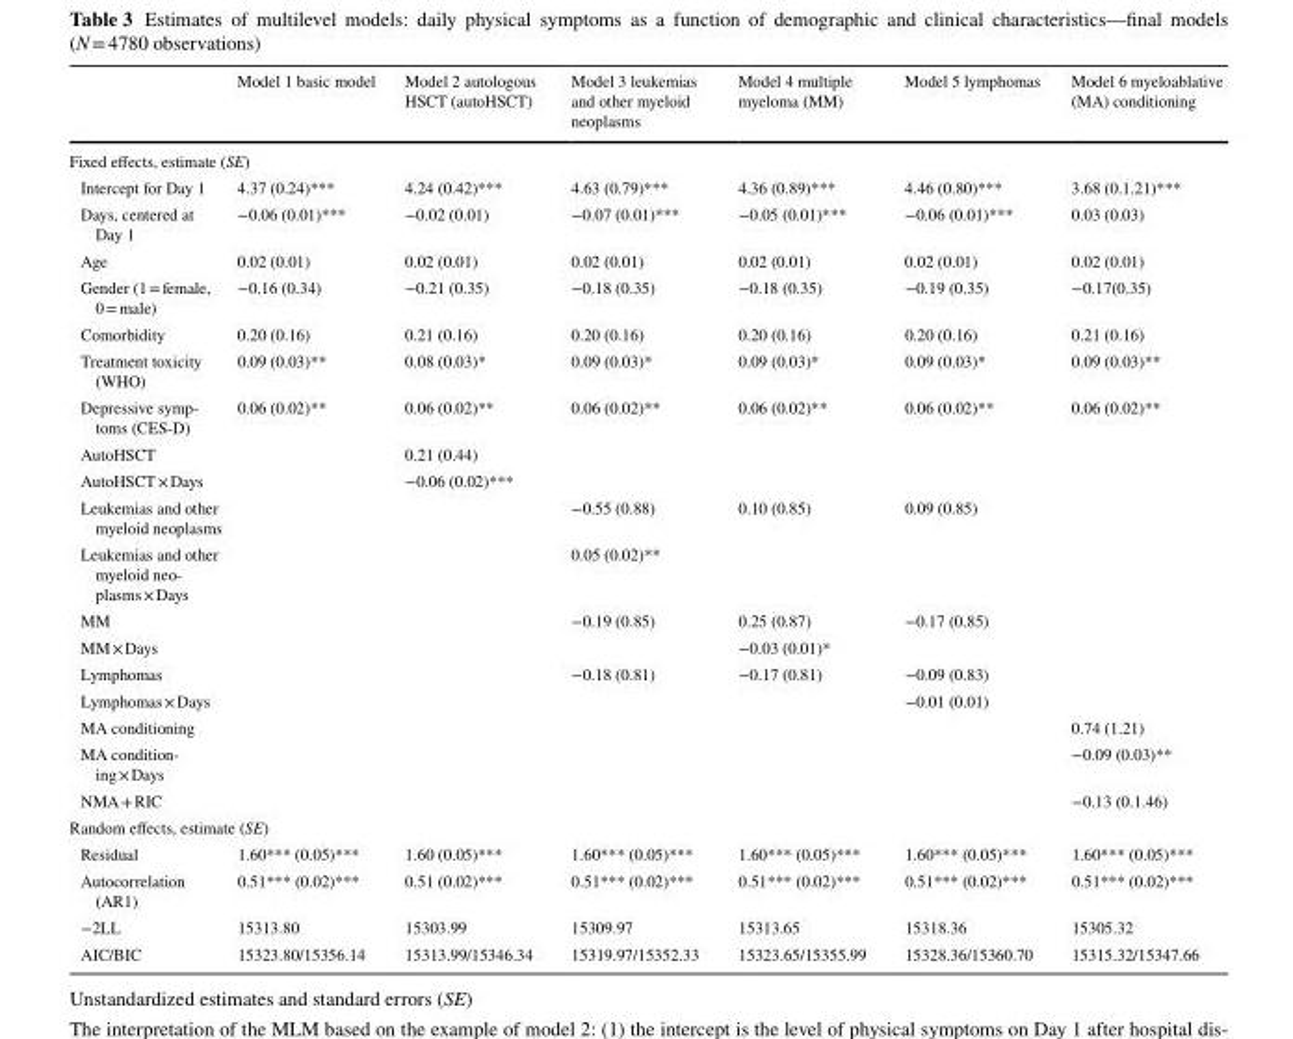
<table><thead><tr><td></td><td>Model 1 basic model</td><td>Model 2 autologous HSCT (autoHSCT)</td><td>Model 3 leukemias and other myeloid neoplasms</td><td>Model 4 multiple myeloma (MM)</td><td>Model 5 lymphomas</td><td>Model 6 myeloablative (MA) conditioning</td></tr></thead><tbody><tr><td colspan="7">Fixed effects, estimate (SE)</td></tr><tr><td>Intercept for Day 1</td><td>4.37 (0.24)***</td><td>4.24 (0.42)***</td><td>4.63 (0.79)***</td><td>4.36 (0.89)***</td><td>4.46 (0.80)***</td><td>3.68 (0.1.21)***</td></tr><tr><td>Days, centered at Day 1</td><td>−0.06 (0.01)***</td><td>−0.02 (0.01)</td><td>−0.07 (0.01)***</td><td>−0.05 (0.01)***</td><td>−0.06 (0.01)***</td><td>0.03 (0.03)</td></tr><tr><td>Age</td><td>0.02 (0.01)</td><td>0.02 (0.01)</td><td>0.02 (0.01)</td><td>0.02 (0.01)</td><td>0.02 (0.01)</td><td>0.02 (0.01)</td></tr><tr><td>Gender (1 = female, 0 = male)</td><td>−0.16 (0.34)</td><td>−0.21 (0.35)</td><td>−0.18 (0.35)</td><td>−0.18 (0.35)</td><td>−0.19 (0.35)</td><td>−0.17(0.35)</td></tr><tr><td>Comorbidity</td><td>0.20 (0.16)</td><td>0.21 (0.16)</td><td>0.20 (0.16)</td><td>0.20 (0.16)</td><td>0.20 (0.16)</td><td>0.21 (0.16)</td></tr><tr><td>Treatment toxicity (WHO)</td><td>0.09 (0.03)**</td><td>0.08 (0.03)*</td><td>0.09 (0.03)*</td><td>0.09 (0.03)*</td><td>0.09 (0.03)*</td><td>0.09 (0.03)**</td></tr><tr><td>Depressive symp- toms (CES-D)</td><td>0.06 (0.02)**</td><td>0.06 (0.02)**</td><td>0.06 (0.02)**</td><td>0.06 (0.02)**</td><td>0.06 (0.02)**</td><td>0.06 (0.02)**</td></tr><tr><td>AutoHSCT</td><td></td><td>0.21 (0.44)</td><td></td><td></td><td></td><td></td></tr><tr><td>AutoHSCT × Days</td><td></td><td>−0.06 (0.02)***</td><td></td><td></td><td></td><td></td></tr><tr><td>Leukemias and other myeloid neoplasms</td><td></td><td></td><td>−0.55 (0.88)</td><td>0.10 (0.85)</td><td>0.09 (0.85)</td><td></td></tr><tr><td>Leukemias and other myeloid neo- plasms × Days</td><td></td><td></td><td>0.05 (0.02)**</td><td></td><td></td><td></td></tr><tr><td>MM</td><td></td><td></td><td>−0.19 (0.85)</td><td>0.25 (0.87)</td><td>−0.17 (0.85)</td><td></td></tr><tr><td>MM × Days</td><td></td><td></td><td></td><td>−0.03 (0.01)*</td><td></td><td></td></tr><tr><td>Lymphomas</td><td></td><td></td><td>−0.18 (0.81)</td><td>−0.17 (0.81)</td><td>−0.09 (0.83)</td><td></td></tr><tr><td>Lymphomas × Days</td><td></td><td></td><td></td><td></td><td>−0.01 (0.01)</td><td></td></tr><tr><td>MA conditioning</td><td></td><td></td><td></td><td></td><td></td><td>0.74 (1.21)</td></tr><tr><td>MA condition- ing × Days</td><td></td><td></td><td></td><td></td><td></td><td>−0.09 (0.03)**</td></tr><tr><td>NMA + RIC</td><td></td><td></td><td></td><td></td><td></td><td>−0.13 (0.1.46)</td></tr><tr><td colspan="7">Random effects, estimate (SE)</td></tr><tr><td>Residual</td><td>1.60*** (0.05)***</td><td>1.60 (0.05)***</td><td>1.60*** (0.05)***</td><td>1.60*** (0.05)***</td><td>1.60*** (0.05)***</td><td>1.60*** (0.05)***</td></tr><tr><td>Autocorrelation (AR1)</td><td>0.51*** (0.02)***</td><td>0.51 (0.02)***</td><td>0.51*** (0.02)***</td><td>0.51*** (0.02)***</td><td>0.51*** (0.02)***</td><td>0.51*** (0.02)***</td></tr><tr><td>−2LL</td><td>15313.80</td><td>15303.99</td><td>15309.97</td><td>15313.65</td><td>15318.36</td><td>15305.32</td></tr><tr><td>AIC/BIC</td><td>15323.80/15356.14</td><td>15313.99/15346.34</td><td>15319.97/15352.33</td><td>15323.65/15355.99</td><td>15328.36/15360.70</td><td>15315.32/15347.66</td></tr></tbody></table>